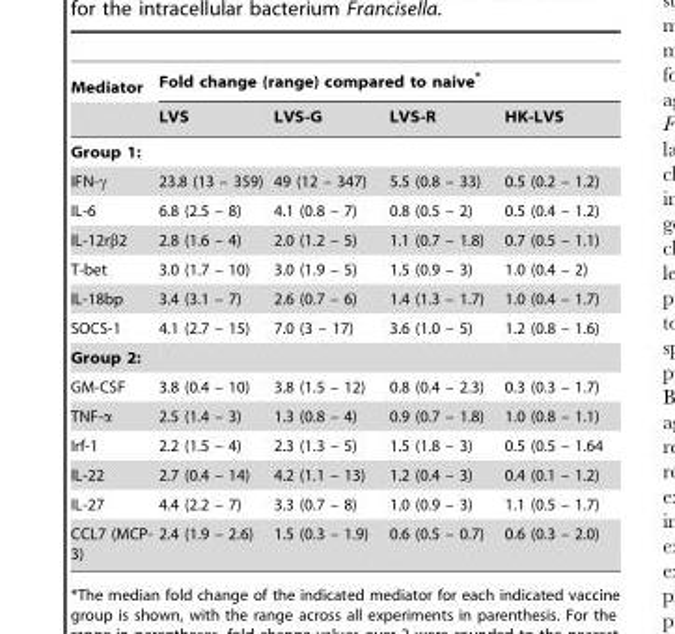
<table><thead><tr><td rowspan="2">Mediator</td><td colspan="4">Fold change (range) compared to naive*</td></tr><tr><td>LVS</td><td>LVS-G</td><td>LVS-R</td><td>HK-LVS</td></tr></thead><tbody><tr><td colspan="5">Group 1:</td></tr><tr><td>IFN-γ</td><td>23.8 (13 – 359)</td><td>49 (12 – 347)</td><td>5.5 (0.8 – 33)</td><td>0.5 (0.2 – 1.2)</td></tr><tr><td>IL-6</td><td>6.8 (2.5 – 8)</td><td>4.1 (0.8 – 7)</td><td>0.8 (0.5 – 2)</td><td>0.5 (0.4 – 1.2)</td></tr><tr><td>IL-12rβ2</td><td>2.8 (1.6 – 4)</td><td>2.0 (1.2 – 5)</td><td>1.1 (0.7 – 1.8)</td><td>0.7 (0.5 – 1.1)</td></tr><tr><td>T-bet</td><td>3.0 (1.7 – 10)</td><td>3.0 (1.9 – 5)</td><td>1.5 (0.9 – 3)</td><td>1.0 (0.4 – 2)</td></tr><tr><td>IL-18bp</td><td>3.4 (3.1 – 7)</td><td>2.6 (0.7 – 6)</td><td>1.4 (1.3 – 1.7)</td><td>1.0 (0.4 – 1.7)</td></tr><tr><td>SOCS-1</td><td>4.1 (2.7 – 15)</td><td>7.0 (3 – 17)</td><td>3.6 (1.0 – 5)</td><td>1.2 (0.8 – 1.6)</td></tr><tr><td colspan="5">Group 2:</td></tr><tr><td>GM-CSF</td><td>3.8 (0.4 – 10)</td><td>3.8 (1.5 – 12)</td><td>0.8 (0.4 – 2.3)</td><td>0.3 (0.3 – 1.7)</td></tr><tr><td>TNF-α</td><td>2.5 (1.4 – 3)</td><td>1.3 (0.8 – 4)</td><td>0.9 (0.7 – 1.8)</td><td>1.0 (0.8 – 1.1)</td></tr><tr><td>Irf-1</td><td>2.2 (1.5 – 4)</td><td>2.3 (1.3 – 5)</td><td>1.5 (1.8 – 3)</td><td>0.5 (0.5 – 1.64</td></tr><tr><td>IL-22</td><td>2.7 (0.4 – 14)</td><td>4.2 (1.1 – 13)</td><td>1.2 (0.4 – 3)</td><td>0.4 (0.1 – 1.2)</td></tr><tr><td>IL-27</td><td>4.4 (2.2 – 7)</td><td>3.3 (0.7 – 8)</td><td>1.0 (0.9 – 3)</td><td>1.1 (0.5 – 1.7)</td></tr><tr><td>CCL7 (MCP- 3)</td><td>2.4 (1.9 – 2.6)</td><td>1.5 (0.3 – 1.9)</td><td>0.6 (0.5 – 0.7)</td><td>0.6 (0.3 – 2.0)</td></tr></tbody></table>